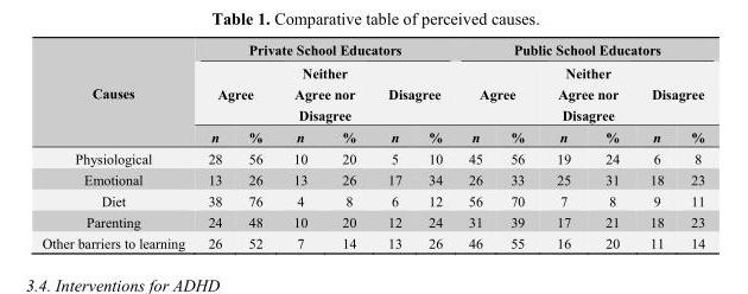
<table><thead><tr><td rowspan="3">Causes</td><td colspan="6">Private School Educators</td><td colspan="6">Public School Educators</td></tr><tr><td colspan="2">Agree</td><td colspan="2">Neither Agree nor Disagree</td><td colspan="2">Disagree</td><td colspan="2">Agree</td><td colspan="2">Neither Agree nor Disagree</td><td colspan="2">Disagree</td></tr><tr><td>n</td><td>%</td><td>n</td><td>%</td><td>n</td><td>%</td><td>n</td><td>%</td><td>n</td><td>%</td><td>n</td><td>%</td></tr></thead><tbody><tr><td>Physiological</td><td>28</td><td>56</td><td>10</td><td>20</td><td>5</td><td>10</td><td>45</td><td>56</td><td>19</td><td>24</td><td>6</td><td>8</td></tr><tr><td>Emotional</td><td>13</td><td>26</td><td>13</td><td>26</td><td>17</td><td>34</td><td>26</td><td>33</td><td>25</td><td>31</td><td>18</td><td>23</td></tr><tr><td>Diet</td><td>38</td><td>76</td><td>4</td><td>8</td><td>6</td><td>12</td><td>56</td><td>70</td><td>7</td><td>8</td><td>9</td><td>11</td></tr><tr><td>Parenting</td><td>24</td><td>48</td><td>10</td><td>20</td><td>12</td><td>24</td><td>31</td><td>39</td><td>17</td><td>21</td><td>18</td><td>23</td></tr><tr><td>Other barriers to learning</td><td>26</td><td>52</td><td>7</td><td>14</td><td>13</td><td>26</td><td>46</td><td>55</td><td>16</td><td>20</td><td>11</td><td>14</td></tr></tbody></table>